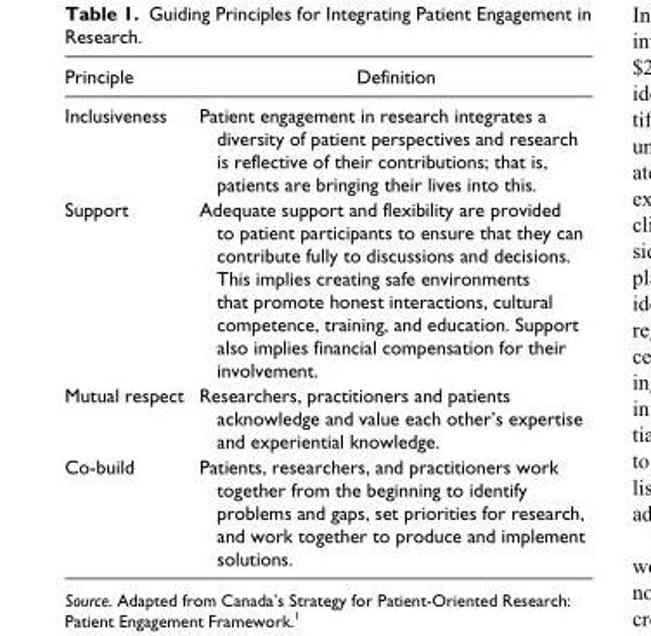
<table><thead><tr><td>Principle</td><td>Definition</td></tr></thead><tbody><tr><td>Inclusiveness</td><td>Patient engagement in research integrates a diversity of patient perspectives and research is reflective of their contributions; that is, patients are bringing their lives into this.</td></tr><tr><td>Support</td><td>Adequate support and flexibility are provided to patient participants to ensure that they can contribute fully to discussions and decisions. This implies creating safe environments that promote honest interactions, cultural competence, training, and education. Support also implies financial compensation for their involvement.</td></tr><tr><td>Mutual respect</td><td>Researchers, practitioners and patients acknowledge and value each other’s expertise and experiential knowledge.</td></tr><tr><td>Co-build</td><td>Patients, researchers, and practitioners work together from the beginning to identify problems and gaps, set priorities for research, and work together to produce and implement solutions.</td></tr></tbody></table>